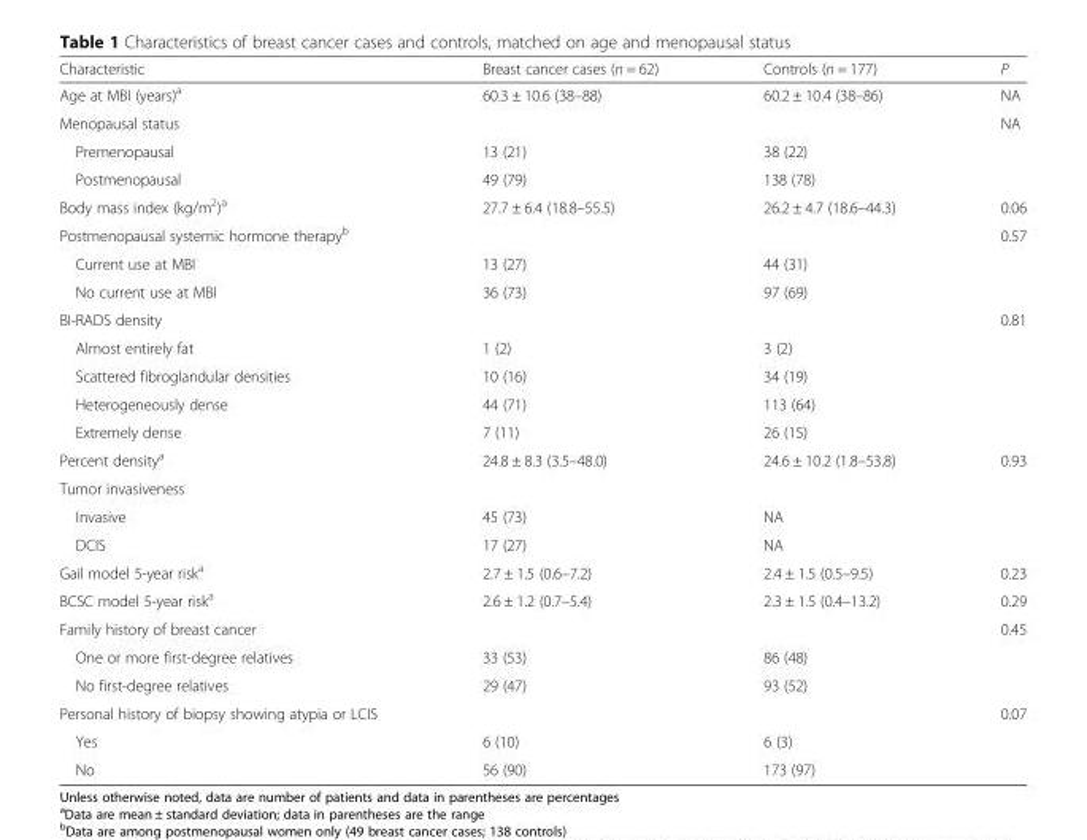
<table><thead><tr><td>Characteristic</td><td>Breast cancer cases (n = 62)</td><td>Controls (n = 177)</td><td>P</td></tr></thead><tbody><tr><td>Age at MBI (years)<sup>a</sup></td><td>60.3 ± 10.6 (38–88)</td><td>60.2 ± 10.4 (38–86)</td><td>NA</td></tr><tr><td>Menopausal status</td><td></td><td></td><td>NA</td></tr><tr><td>Premenopausal</td><td>13 (21)</td><td>38 (22)</td><td rowspan="2"></td></tr><tr><td>Postmenopausal</td><td>49 (79)</td><td>138 (78)</td></tr><tr><td>Body mass index (kg/m<sup>2</sup>)<sup>a</sup></td><td>27.7 ± 6.4 (18.8–55.5)</td><td>26.2 ± 4.7 (18.6–44.3)</td><td>0.06</td></tr><tr><td>Postmenopausal systemic hormone therapy<sup>b</sup></td><td></td><td></td><td>0.57</td></tr><tr><td>Current use at MBI</td><td>13 (27)</td><td>44 (31)</td><td></td></tr><tr><td>No current use at MBI</td><td>36 (73)</td><td>97 (69)</td><td></td></tr><tr><td>BI-RADS density</td><td></td><td></td><td>0.81</td></tr><tr><td>Almost entirely fat</td><td>1 (2)</td><td>3 (2)</td><td rowspan="4"></td></tr><tr><td>Scattered fibroglandular densities</td><td>10 (16)</td><td>34 (19)</td></tr><tr><td>Heterogeneously dense</td><td>44 (71)</td><td>113 (64)</td></tr><tr><td>Extremely dense</td><td>7 (11)</td><td>26 (15)</td></tr><tr><td>Percent density<sup>a</sup></td><td>24.8 ± 8.3 (3.5–48.0)</td><td>24.6 ± 10.2 (1.8–53.8)</td><td>0.93</td></tr><tr><td colspan="4">Tumor invasiveness</td></tr><tr><td>Invasive</td><td>45 (73)</td><td>NA</td><td rowspan="2"></td></tr><tr><td>DCIS</td><td>17 (27)</td><td>NA</td></tr><tr><td>Gail model 5-year risk<sup>a</sup></td><td>2.7 ± 1.5 (0.6–7.2)</td><td>2.4 ± 1.5 (0.5–9.5)</td><td>0.23</td></tr><tr><td>BCSC model 5-year risk<sup>a</sup></td><td>2.6 ± 1.2 (0.7–5.4)</td><td>2.3 ± 1.5 (0.4–13.2)</td><td>0.29</td></tr><tr><td>Family history of breast cancer</td><td></td><td></td><td>0.45</td></tr><tr><td>One or more first-degree relatives</td><td>33 (53)</td><td>86 (48)</td><td rowspan="2"></td></tr><tr><td>No first-degree relatives</td><td>29 (47)</td><td>93 (52)</td></tr><tr><td>Personal history of biopsy showing atypia or LCIS</td><td></td><td></td><td>0.07</td></tr><tr><td>Yes</td><td>6 (10)</td><td>6 (3)</td><td rowspan="2"></td></tr><tr><td>No</td><td>56 (90)</td><td>173 (97)</td></tr></tbody></table>